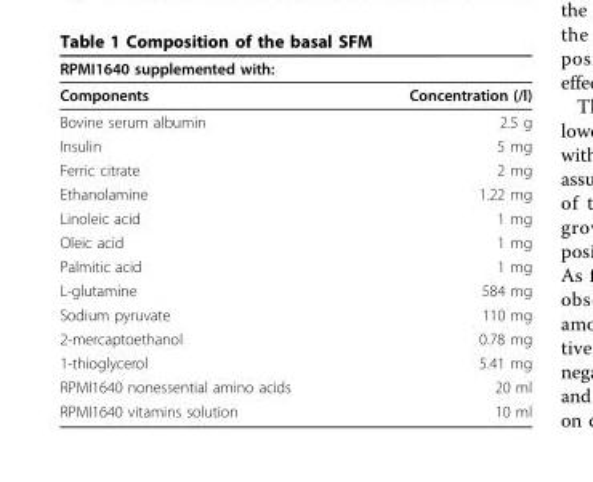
<table><thead><tr><td colspan="2">RPMI1640 supplemented with:</td></tr><tr><td>Components</td><td>Concentration (/l)</td></tr></thead><tbody><tr><td>Bovine serum albumin</td><td>2.5 g</td></tr><tr><td>Insulin</td><td>5 mg</td></tr><tr><td>Ferric citrate</td><td>2 mg</td></tr><tr><td>Ethanolamine</td><td>1.22 mg</td></tr><tr><td>Linoleic acid</td><td>1 mg</td></tr><tr><td>Oleic acid</td><td>1 mg</td></tr><tr><td>Palmitic acid</td><td>1 mg</td></tr><tr><td>L-glutamine</td><td>584 mg</td></tr><tr><td>Sodium pyruvate</td><td>110 mg</td></tr><tr><td>2-mercaptoethanol</td><td>0.78 mg</td></tr><tr><td>1-thioglycerol</td><td>5.41 mg</td></tr><tr><td>RPMI1640 nonessential amino acids</td><td>20 ml</td></tr><tr><td>RPMI1640 vitamins solution</td><td>10 ml</td></tr></tbody></table>